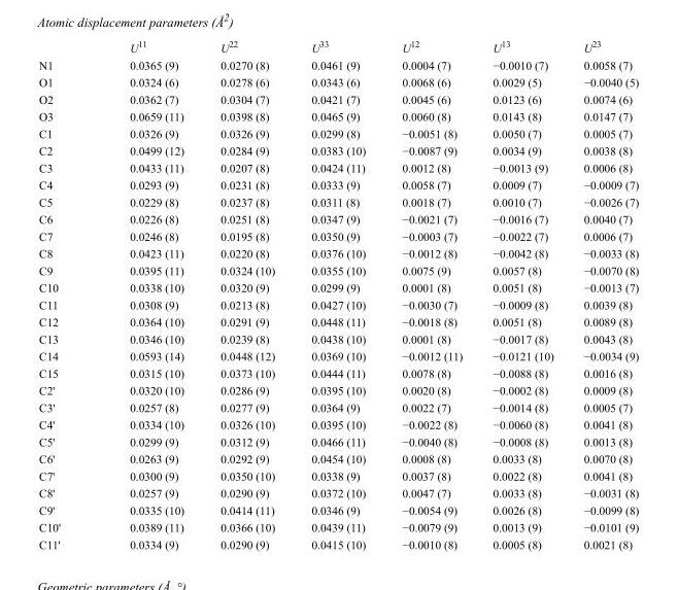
<table><thead><tr><td></td><td>U<sup>11</sup></td><td>U<sup>22</sup></td><td>U<sup>33</sup></td><td>U<sup>12</sup></td><td>U<sup>13</sup></td><td>U<sup>23</sup></td></tr></thead><tbody><tr><td>N1</td><td>0.0365 (9)</td><td>0.0270 (8)</td><td>0.0461 (9)</td><td>0.0004 (7)</td><td>−0.0010 (7)</td><td>0.0058 (7)</td></tr><tr><td>O1</td><td>0.0324 (6)</td><td>0.0278 (6)</td><td>0.0343 (6)</td><td>0.0068 (6)</td><td>0.0029 (5)</td><td>−0.0040 (5)</td></tr><tr><td>O2</td><td>0.0362 (7)</td><td>0.0304 (7)</td><td>0.0421 (7)</td><td>0.0045 (6)</td><td>0.0123 (6)</td><td>0.0074 (6)</td></tr><tr><td>O3</td><td>0.0659 (11)</td><td>0.0398 (8)</td><td>0.0465 (9)</td><td>0.0060 (8)</td><td>0.0143 (8)</td><td>0.0147 (7)</td></tr><tr><td>C1</td><td>0.0326 (9)</td><td>0.0326 (9)</td><td>0.0299 (8)</td><td>−0.0051 (8)</td><td>0.0050 (7)</td><td>0.0005 (7)</td></tr><tr><td>C2</td><td>0.0499 (12)</td><td>0.0284 (9)</td><td>0.0383 (10)</td><td>−0.0087 (9)</td><td>0.0034 (9)</td><td>0.0038 (8)</td></tr><tr><td>C3</td><td>0.0433 (11)</td><td>0.0207 (8)</td><td>0.0424 (11)</td><td>0.0012 (8)</td><td>−0.0013 (9)</td><td>0.0006 (8)</td></tr><tr><td>C4</td><td>0.0293 (9)</td><td>0.0231 (8)</td><td>0.0333 (9)</td><td>0.0058 (7)</td><td>0.0009 (7)</td><td>−0.0009 (7)</td></tr><tr><td>C5</td><td>0.0229 (8)</td><td>0.0237 (8)</td><td>0.0311 (8)</td><td>0.0018 (7)</td><td>0.0010 (7)</td><td>−0.0026 (7)</td></tr><tr><td>C6</td><td>0.0226 (8)</td><td>0.0251 (8)</td><td>0.0347 (9)</td><td>−0.0021 (7)</td><td>−0.0016 (7)</td><td>0.0040 (7)</td></tr><tr><td>C7</td><td>0.0246 (8)</td><td>0.0195 (8)</td><td>0.0350 (9)</td><td>−0.0003 (7)</td><td>−0.0022 (7)</td><td>0.0006 (7)</td></tr><tr><td>C8</td><td>0.0423 (11)</td><td>0.0220 (8)</td><td>0.0376 (10)</td><td>−0.0012 (8)</td><td>−0.0042 (8)</td><td>−0.0033 (8)</td></tr><tr><td>C9</td><td>0.0395 (11)</td><td>0.0324 (10)</td><td>0.0355 (10)</td><td>0.0075 (9)</td><td>0.0057 (8)</td><td>−0.0070 (8)</td></tr><tr><td>C10</td><td>0.0338 (10)</td><td>0.0320 (9)</td><td>0.0299 (9)</td><td>0.0001 (8)</td><td>0.0051 (8)</td><td>−0.0013 (7)</td></tr><tr><td>C11</td><td>0.0308 (9)</td><td>0.0213 (8)</td><td>0.0427 (10)</td><td>−0.0030 (7)</td><td>−0.0009 (8)</td><td>0.0039 (8)</td></tr><tr><td>C12</td><td>0.0364 (10)</td><td>0.0291 (9)</td><td>0.0448 (11)</td><td>−0.0018 (8)</td><td>0.0051 (8)</td><td>0.0089 (8)</td></tr><tr><td>C13</td><td>0.0346 (10)</td><td>0.0239 (8)</td><td>0.0438 (10)</td><td>0.0001 (8)</td><td>−0.0017 (8)</td><td>0.0043 (8)</td></tr><tr><td>C14</td><td>0.0593 (14)</td><td>0.0448 (12)</td><td>0.0369 (10)</td><td>−0.0012 (11)</td><td>−0.0121 (10)</td><td>−0.0034 (9)</td></tr><tr><td>C15</td><td>0.0315 (10)</td><td>0.0373 (10)</td><td>0.0444 (11)</td><td>0.0078 (8)</td><td>−0.0088 (8)</td><td>0.0016 (8)</td></tr><tr><td>C2&#x27;</td><td>0.0320 (10)</td><td>0.0286 (9)</td><td>0.0395 (10)</td><td>0.0020 (8)</td><td>−0.0002 (8)</td><td>0.0009 (8)</td></tr><tr><td>C3&#x27;</td><td>0.0257 (8)</td><td>0.0277 (9)</td><td>0.0364 (9)</td><td>0.0022 (7)</td><td>−0.0014 (8)</td><td>0.0005 (7)</td></tr><tr><td>C4&#x27;</td><td>0.0334 (10)</td><td>0.0326 (10)</td><td>0.0395 (10)</td><td>−0.0022 (8)</td><td>−0.0060 (8)</td><td>0.0041 (8)</td></tr><tr><td>C5&#x27;</td><td>0.0299 (9)</td><td>0.0312 (9)</td><td>0.0466 (11)</td><td>−0.0040 (8)</td><td>−0.0008 (8)</td><td>0.0013 (8)</td></tr><tr><td>C6&#x27;</td><td>0.0263 (9)</td><td>0.0292 (9)</td><td>0.0454 (10)</td><td>0.0008 (8)</td><td>0.0033 (8)</td><td>0.0070 (8)</td></tr><tr><td>C7&#x27;</td><td>0.0300 (9)</td><td>0.0350 (10)</td><td>0.0338 (9)</td><td>0.0037 (8)</td><td>0.0022 (8)</td><td>0.0041 (8)</td></tr><tr><td>C8&#x27;</td><td>0.0257 (9)</td><td>0.0290 (9)</td><td>0.0372 (10)</td><td>0.0047 (7)</td><td>0.0033 (8)</td><td>−0.0031 (8)</td></tr><tr><td>C9&#x27;</td><td>0.0335 (10)</td><td>0.0414 (11)</td><td>0.0346 (9)</td><td>−0.0054 (9)</td><td>0.0026 (8)</td><td>−0.0099 (8)</td></tr><tr><td>C10&#x27;</td><td>0.0389 (11)</td><td>0.0366 (10)</td><td>0.0439 (11)</td><td>−0.0079 (9)</td><td>0.0013 (9)</td><td>−0.0101 (9)</td></tr><tr><td>C11&#x27;</td><td>0.0334 (9)</td><td>0.0290 (9)</td><td>0.0415 (10)</td><td>−0.0010 (8)</td><td>0.0005 (8)</td><td>0.0021 (8)</td></tr></tbody></table>